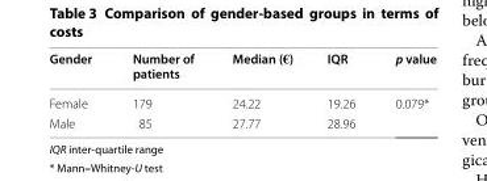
<table><thead><tr><td>Gender</td><td>Number of patients</td><td>Median (€)</td><td>IQR</td><td>p value</td></tr></thead><tbody><tr><td>Female</td><td>179</td><td>24.22</td><td>19.26</td><td rowspan="2">0.079*</td></tr><tr><td>Male</td><td>85</td><td>27.77</td><td>28.96</td></tr></tbody></table>